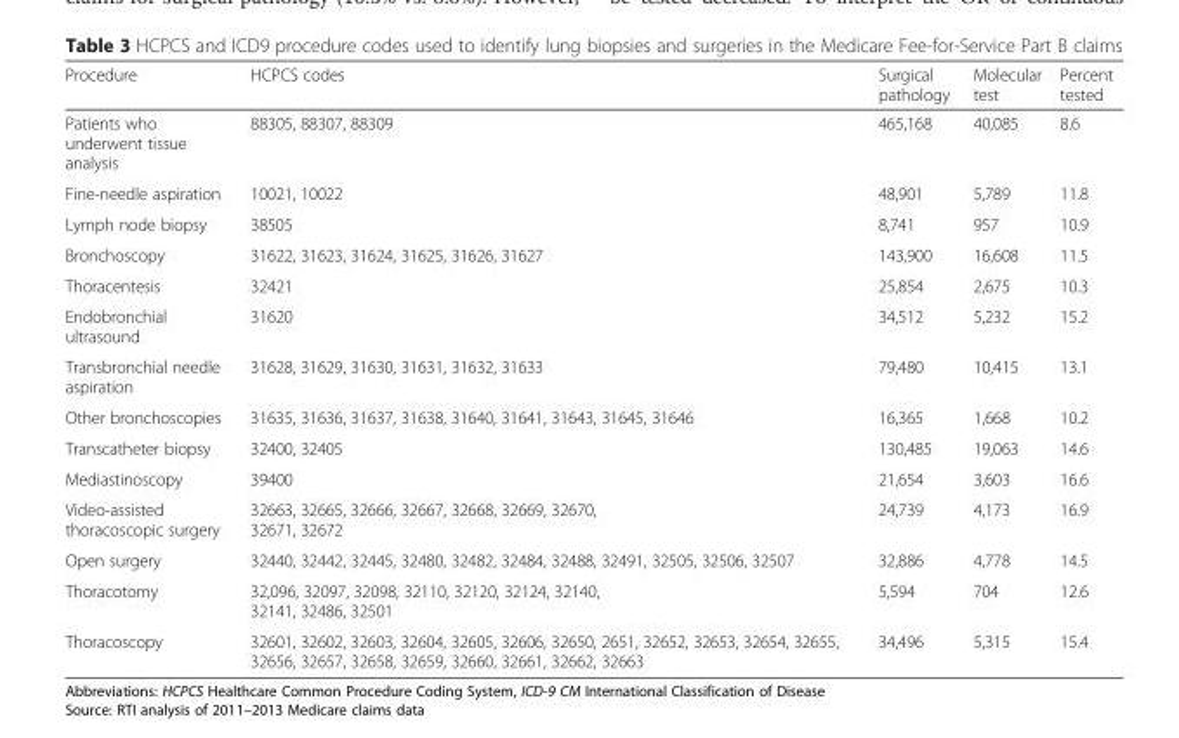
<table><thead><tr><td>Procedure</td><td>HCPCS codes</td><td>Surgical pathology</td><td>Molecular test</td><td>Percent tested</td></tr></thead><tbody><tr><td>Patients who underwent tissue analysis</td><td>88305, 88307, 88309</td><td>465,168</td><td>40,085</td><td>8.6</td></tr><tr><td>Fine-needle aspiration</td><td>10021, 10022</td><td>48,901</td><td>5,789</td><td>11.8</td></tr><tr><td>Lymph node biopsy</td><td>38505</td><td>8,741</td><td>957</td><td>10.9</td></tr><tr><td>Bronchoscopy</td><td>31622, 31623, 31624, 31625, 31626, 31627</td><td>143,900</td><td>16,608</td><td>11.5</td></tr><tr><td>Thoracentesis</td><td>32421</td><td>25,854</td><td>2,675</td><td>10.3</td></tr><tr><td>Endobronchial ultrasound</td><td>31620</td><td>34,512</td><td>5,232</td><td>15.2</td></tr><tr><td>Transbronchial needle aspiration</td><td>31628, 31629, 31630, 31631, 31632, 31633</td><td>79,480</td><td>10,415</td><td>13.1</td></tr><tr><td>Other bronchoscopies</td><td>31635, 31636, 31637, 31638, 31640, 31641, 31643, 31645, 31646</td><td>16,365</td><td>1,668</td><td>10.2</td></tr><tr><td>Transcatheter biopsy</td><td>32400, 32405</td><td>130,485</td><td>19,063</td><td>14.6</td></tr><tr><td>Mediastinoscopy</td><td>39400</td><td>21,654</td><td>3,603</td><td>16.6</td></tr><tr><td>Video-assisted thoracoscopic surgery</td><td>32663, 32665, 32666, 32667, 32668, 32669, 32670, 32671, 32672</td><td>24,739</td><td>4,173</td><td>16.9</td></tr><tr><td>Open surgery</td><td>32440, 32442, 32445, 32480, 32482, 32484, 32488, 32491, 32505, 32506, 32507</td><td>32,886</td><td>4,778</td><td>14.5</td></tr><tr><td>Thoracotomy</td><td>32,096, 32097, 32098, 32110, 32120, 32124, 32140, 32141, 32486, 32501</td><td>5,594</td><td>704</td><td>12.6</td></tr><tr><td>Thoracoscopy</td><td>32601, 32602, 32603, 32604, 32605, 32606, 32650, 2651, 32652, 32653, 32654, 32655, 32656, 32657, 32658, 32659, 32660, 32661, 32662, 32663</td><td>34,496</td><td>5,315</td><td>15.4</td></tr></tbody></table>